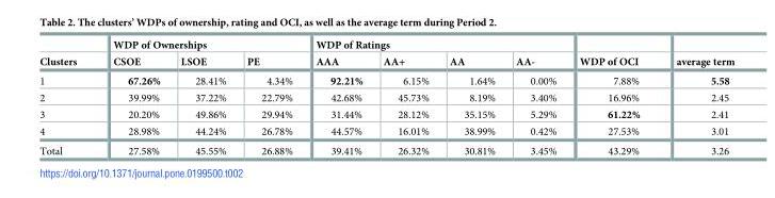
<table><thead><tr><td rowspan="2">Clusters</td><td colspan="3">WDP of Ownerships</td><td colspan="4">WDP of Ratings</td><td rowspan="2">WDP of OCI</td><td rowspan="2">average term</td></tr><tr><td>CSOE</td><td>LSOE</td><td>PE</td><td>AAA</td><td>AA+</td><td>AA</td><td>AA-</td></tr></thead><tbody><tr><td>1</td><td>67.26%</td><td>28.41%</td><td>4.34%</td><td>92.21%</td><td>6.15%</td><td>1.64%</td><td>0.00%</td><td>7.88%</td><td>5.58</td></tr><tr><td>2</td><td>39.99%</td><td>37.22%</td><td>22.79%</td><td>42.68%</td><td>45.73%</td><td>8.19%</td><td>3.40%</td><td>16.96%</td><td>2.45</td></tr><tr><td>3</td><td>20.20%</td><td>49.86%</td><td>29.94%</td><td>31.44%</td><td>28.12%</td><td>35.15%</td><td>5.29%</td><td>61.22%</td><td>2.41</td></tr><tr><td>4</td><td>28.98%</td><td>44.24%</td><td>26.78%</td><td>44.57%</td><td>16.01%</td><td>38.99%</td><td>0.42%</td><td>27.53%</td><td>3.01</td></tr><tr><td>Total</td><td>27.58%</td><td>45.55%</td><td>26.88%</td><td>39.41%</td><td>26.32%</td><td>30.81%</td><td>3.45%</td><td>43.29%</td><td>3.26</td></tr></tbody></table>